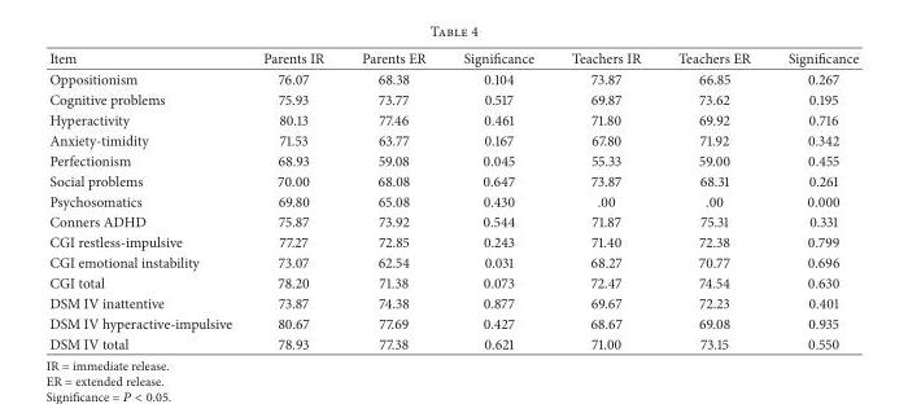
<table><thead><tr><td>Item</td><td>Parents IR</td><td>Parents ER</td><td>Significance</td><td>Teachers IR</td><td>Teachers ER</td><td>Significance</td></tr></thead><tbody><tr><td>Oppositionism</td><td>76.07</td><td>68.38</td><td>0.104</td><td>73.87</td><td>66.85</td><td>0.267</td></tr><tr><td>Cognitive problems</td><td>75.93</td><td>73.77</td><td>0.517</td><td>69.87</td><td>73.62</td><td>0.195</td></tr><tr><td>Hyperactivity</td><td>80.13</td><td>77.46</td><td>0.461</td><td>71.80</td><td>69.92</td><td>0.716</td></tr><tr><td>Anxiety-timidity</td><td>71.53</td><td>63.77</td><td>0.167</td><td>67.80</td><td>71.92</td><td>0.342</td></tr><tr><td>Perfectionism</td><td>68.93</td><td>59.08</td><td>0.045</td><td>55.33</td><td>59.00</td><td>0.455</td></tr><tr><td>Social problems</td><td>70.00</td><td>68.08</td><td>0.647</td><td>73.87</td><td>68.31</td><td>0.261</td></tr><tr><td>Psychosomatics</td><td>69.80</td><td>65.08</td><td>0.430</td><td>.00</td><td>.00</td><td>0.000</td></tr><tr><td>Conners ADHD</td><td>75.87</td><td>73.92</td><td>0.544</td><td>71.87</td><td>75.31</td><td>0.331</td></tr><tr><td>CGI restless-impulsive</td><td>77.27</td><td>72.85</td><td>0.243</td><td>71.40</td><td>72.38</td><td>0.799</td></tr><tr><td>CGI emotional instability</td><td>73.07</td><td>62.54</td><td>0.031</td><td>68.27</td><td>70.77</td><td>0.696</td></tr><tr><td>CGI total</td><td>78.20</td><td>71.38</td><td>0.073</td><td>72.47</td><td>74.54</td><td>0.630</td></tr><tr><td>DSM IV inattentive</td><td>73.87</td><td>74.38</td><td>0.877</td><td>69.67</td><td>72.23</td><td>0.401</td></tr><tr><td>DSM IV hyperactive-impulsive</td><td>80.67</td><td>77.69</td><td>0.427</td><td>68.67</td><td>69.08</td><td>0.935</td></tr><tr><td>DSM IV total</td><td>78.93</td><td>77.38</td><td>0.621</td><td>71.00</td><td>73.15</td><td>0.550</td></tr></tbody></table>